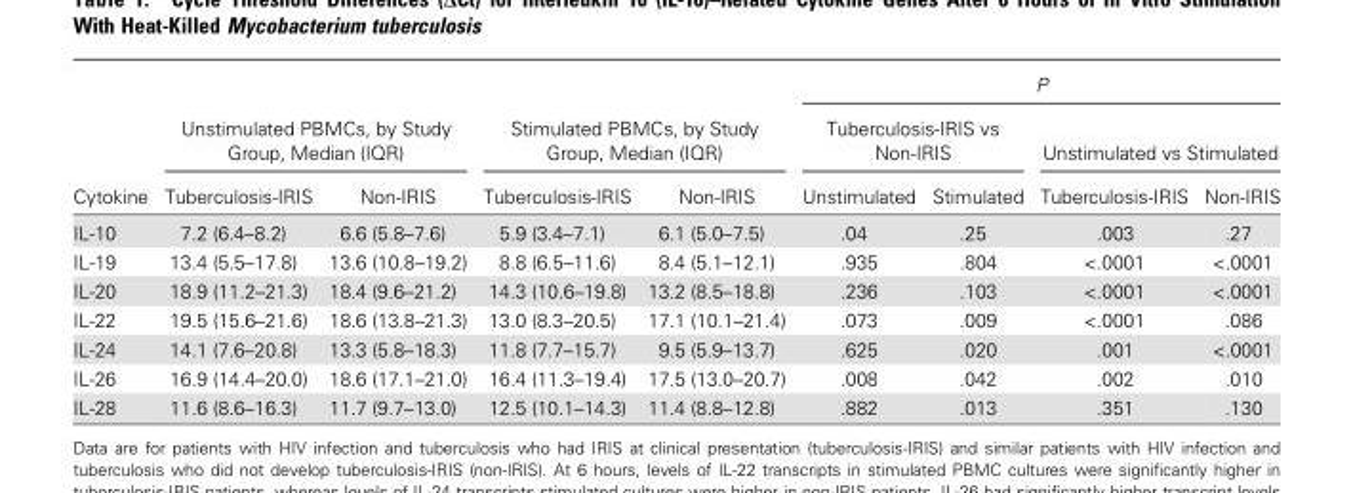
<table><thead><tr><td rowspan="3">Cytokine</td><td></td><td></td><td></td><td></td><td colspan="4">P</td></tr><tr><td colspan="2">Unstimulated PBMCs, by Study Group, Median (IQR)</td><td colspan="2">Stimulated PBMCs, by Study Group, Median (IQR)</td><td colspan="2">Tuberculosis-IRIS vs Non-IRIS</td><td colspan="2">Unstimulated vs Stimulated</td></tr><tr><td>Tuberculosis-IRIS</td><td>Non-IRIS</td><td>Tuberculosis-IRIS</td><td>Non-IRIS</td><td>Unstimulated</td><td>Stimulated</td><td>Tuberculosis-IRIS</td><td>Non-IRIS</td></tr></thead><tbody><tr><td>IL-10</td><td>7.2 (6.4–8.2)</td><td>6.6 (5.8–7.6)</td><td>5.9 (3.4–7.1)</td><td>6.1 (5.0–7.5)</td><td>.04</td><td>.25</td><td>.003</td><td>.27</td></tr><tr><td>IL-19</td><td>13.4 (5.5–17.8)</td><td>13.6 (10.8–19.2)</td><td>8.8 (6.5–11.6)</td><td>8.4 (5.1–12.1)</td><td>.935</td><td>.804</td><td>&lt;.0001</td><td>&lt;.0001</td></tr><tr><td>IL-20</td><td>18.9 (11.2–21.3)</td><td>18.4 (9.6–21.2)</td><td>14.3 (10.6–19.8)</td><td>13.2 (8.5–18.8)</td><td>.236</td><td>.103</td><td>&lt;.0001</td><td>&lt;.0001</td></tr><tr><td>IL-22</td><td>19.5 (15.6–21.6)</td><td>18.6 (13.8–21.3)</td><td>13.0 (8.3–20.5)</td><td>17.1 (10.1–21.4)</td><td>.073</td><td>.009</td><td>&lt;.0001</td><td>.086</td></tr><tr><td>IL-24</td><td>14.1 (7.6–20.8)</td><td>13.3 (5.8–18.3)</td><td>11.8 (7.7–15.7)</td><td>9.5 (5.9–13.7)</td><td>.625</td><td>.020</td><td>.001</td><td>&lt;.0001</td></tr><tr><td>IL-26</td><td>16.9 (14.4–20.0)</td><td>18.6 (17.1–21.0)</td><td>16.4 (11.3–19.4)</td><td>17.5 (13.0–20.7)</td><td>.008</td><td>.042</td><td>.002</td><td>.010</td></tr><tr><td>IL-28</td><td>11.6 (8.6–16.3)</td><td>11.7 (9.7–13.0)</td><td>12.5 (10.1–14.3)</td><td>11.4 (8.8–12.8)</td><td>.882</td><td>.013</td><td>.351</td><td>.130</td></tr></tbody></table>